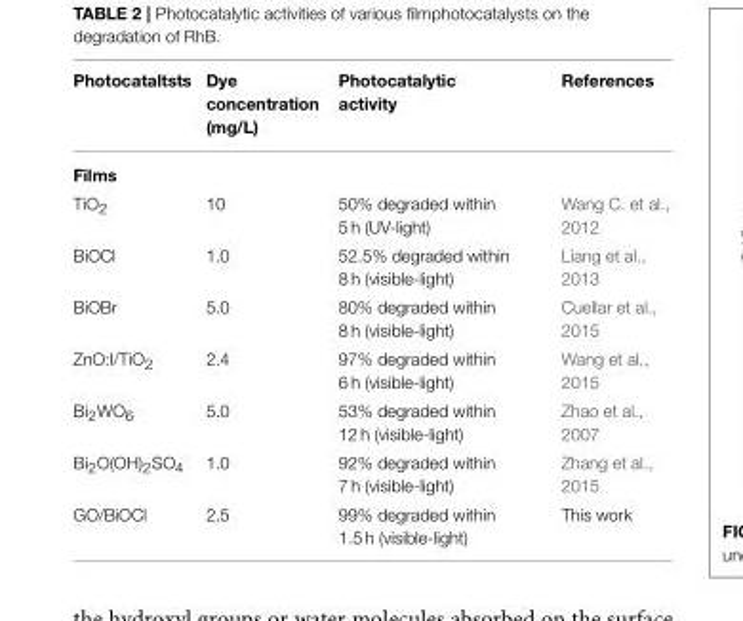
<table><thead><tr><td>Photocataltsts</td><td>Dye concentration (mg/L)</td><td>Photocatalytic activity</td><td>References</td></tr></thead><tbody><tr><td colspan="4">Films</td></tr><tr><td>TiO<sub>2</sub></td><td>10</td><td>50% degraded within 5 h (UV-light)</td><td>Wang C. et al., 2012</td></tr><tr><td>BiOCl</td><td>1.0</td><td>52.5% degraded within 8 h (visible-light)</td><td>Liang et al., 2013</td></tr><tr><td>BiOBr</td><td>5.0</td><td>80% degraded within 8 h (visible-light)</td><td>Cuellar et al., 2015</td></tr><tr><td>ZnO:I/TiO<sub>2</sub></td><td>2.4</td><td>97% degraded within 6 h (visible-light)</td><td>Wang et al., 2015</td></tr><tr><td>Bi<sub>2</sub>WO<sub>6</sub></td><td>5.0</td><td>53% degraded within 12 h (visible-light)</td><td>Zhao et al., 2007</td></tr><tr><td>Bi<sub>2</sub>O(OH)<sub>2</sub>SO<sub>4</sub></td><td>1.0</td><td>92% degraded within 7 h (visible-light)</td><td>Zhang et al., 2015</td></tr><tr><td>GO/BiOCl</td><td>2.5</td><td>99% degraded within 1.5 h (visible-light)</td><td>This work</td></tr></tbody></table>